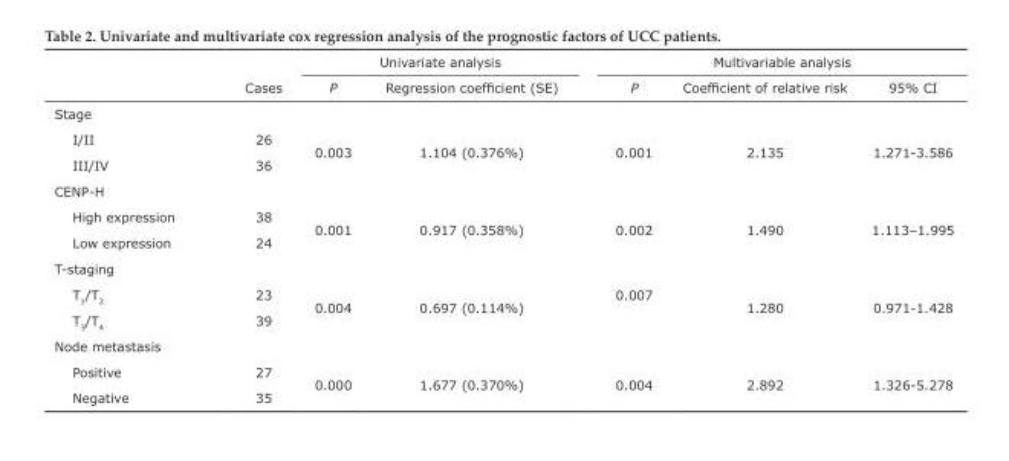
<table><thead><tr><td rowspan="2"></td><td rowspan="2">Cases</td><td colspan="2">Univariate analysis</td><td colspan="3">Multivariable analysis</td></tr><tr><td>P</td><td>Regression coefficient (SE)</td><td>P</td><td>Coefficient of relative risk</td><td>95% CI</td></tr></thead><tbody><tr><td colspan="7">Stage</td></tr><tr><td>I/II</td><td>26</td><td rowspan="2">0.003</td><td rowspan="2">1.104 (0.376%)</td><td rowspan="2">0.001</td><td rowspan="2">2.135</td><td rowspan="2">1.271-3.586</td></tr><tr><td>III/IV</td><td>36</td></tr><tr><td colspan="7">CENP-H</td></tr><tr><td>High expression</td><td>38</td><td rowspan="2">0.001</td><td rowspan="2">0.917 (0.358%)</td><td rowspan="2">0.002</td><td rowspan="2">1.490</td><td rowspan="2">1.113–1.995</td></tr><tr><td>Low expression</td><td>24</td></tr><tr><td colspan="7">T-staging</td></tr><tr><td>T<sub>1</sub>/T<sub>2</sub></td><td>23</td><td rowspan="2">0.004</td><td rowspan="2">0.697 (0.114%)</td><td rowspan="2">0.007</td><td rowspan="2">1.280</td><td rowspan="2">0.971-1.428</td></tr><tr><td>T<sub>3</sub>/T<sub>4</sub></td><td>39</td></tr><tr><td colspan="7">Node metastasis</td></tr><tr><td>Positive</td><td>27</td><td rowspan="2">0.000</td><td rowspan="2">1.677 (0.370%)</td><td rowspan="2">0.004</td><td rowspan="2">2.892</td><td rowspan="2">1.326-5.278</td></tr><tr><td>Negative</td><td>35</td></tr></tbody></table>